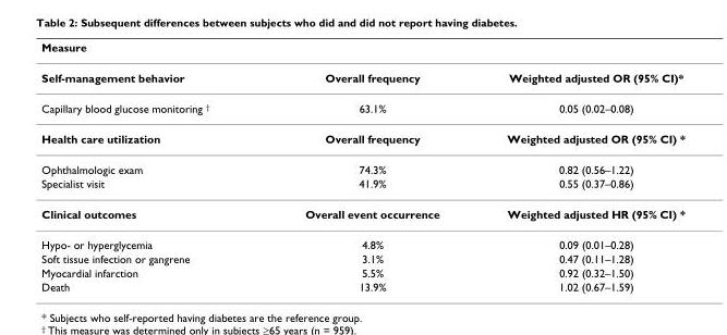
<table><thead><tr><td>Measure</td><td></td><td></td></tr></thead><tbody><tr><td>Self-management behavior</td><td>Overall frequency</td><td>Weighted adjusted OR (95% CI)*</td></tr><tr><td>Capillary blood glucose monitoring <sup>†</sup></td><td>63.1%</td><td>0.05 (0.02–0.08)</td></tr><tr><td>Health care utilization</td><td>Overall frequency</td><td>Weighted adjusted OR (95% CI) *</td></tr><tr><td>Ophthalmologic exam</td><td>74.3%</td><td>0.82 (0.56–1.22)</td></tr><tr><td>Specialist visit</td><td>41.9%</td><td>0.55 (0.37–0.86)</td></tr><tr><td>Clinical outcomes</td><td>Overall event occurrence</td><td>Weighted adjusted HR (95% CI) *</td></tr><tr><td>Hypo- or hyperglycemia</td><td>4.8%</td><td>0.09 (0.01–0.28)</td></tr><tr><td>Soft tissue infection or gangrene</td><td>3.1%</td><td>0.47 (0.11–1.28)</td></tr><tr><td>Myocardial infarction</td><td>5.5%</td><td>0.92 (0.32–1.50)</td></tr><tr><td>Death</td><td>13.9%</td><td>1.02 (0.67–1.59)</td></tr></tbody></table>